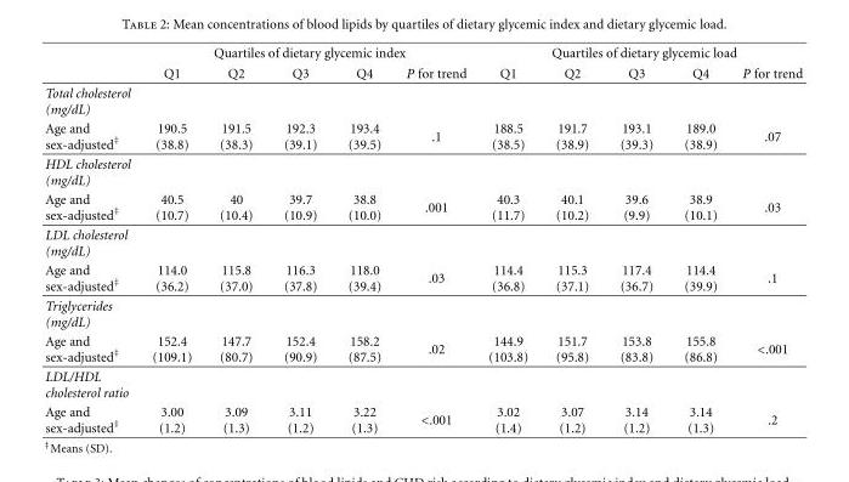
<table><thead><tr><td rowspan="2"></td><td colspan="5">Quartiles of dietary glycemic index</td><td colspan="5">Quartiles of dietary glycemic load</td></tr><tr><td>Q1</td><td>Q2</td><td>Q3</td><td>Q4</td><td>P for trend</td><td>Q1</td><td>Q2</td><td>Q3</td><td>Q4</td><td>P for trend</td></tr></thead><tbody><tr><td colspan="11">Total cholesterol (mg/dL)</td></tr><tr><td>Age and sex-adjusted<sup>‡</sup></td><td>190.5 (38.8)</td><td>191.5 (38.3)</td><td>192.3 (39.1)</td><td>193.4 (39.5)</td><td>.1</td><td>188.5 (38.5)</td><td>191.7 (38.9)</td><td>193.1 (39.3)</td><td>189.0 (38.9)</td><td>.07</td></tr><tr><td colspan="11">HDL cholesterol (mg/dL)</td></tr><tr><td>Age and sex-adjusted<sup>‡</sup></td><td>40.5 (10.7)</td><td>40 (10.4)</td><td>39.7 (10.9)</td><td>38.8 (10.0)</td><td>.001</td><td>40.3 (11.7)</td><td>40.1 (10.2)</td><td>39.6 (9.9)</td><td>38.9 (10.1)</td><td>.03</td></tr><tr><td colspan="11">LDL cholesterol (mg/dL)</td></tr><tr><td>Age and sex-adjusted<sup>‡</sup></td><td>114.0 (36.2)</td><td>115.8 (37.0)</td><td>116.3 (37.8)</td><td>118.0 (39.4)</td><td>.03</td><td>114.4 (36.8)</td><td>115.3 (37.1)</td><td>117.4 (36.7)</td><td>114.4 (39.9)</td><td>.1</td></tr><tr><td colspan="11">Triglycerides (mg/dL)</td></tr><tr><td>Age and sex-adjusted<sup>‡</sup></td><td>152.4 (109.1)</td><td>147.7 (80.7)</td><td>152.4 (90.9)</td><td>158.2 (87.5)</td><td>.02</td><td>144.9 (103.8)</td><td>151.7 (95.8)</td><td>153.8 (83.8)</td><td>155.8 (86.8)</td><td>&lt;.001</td></tr><tr><td colspan="11">LDL/HDL cholesterol ratio</td></tr><tr><td>Age and sex-adjusted<sup>‡</sup></td><td>3.00 (1.2)</td><td>3.09 (1.3)</td><td>3.11 (1.2)</td><td>3.22 (1.3)</td><td>&lt;.001</td><td>3.02 (1.4)</td><td>3.07 (1.2)</td><td>3.14 (1.2)</td><td>3.14 (1.3)</td><td>.2</td></tr></tbody></table>